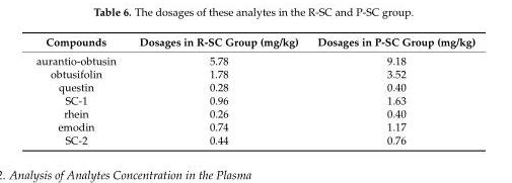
<table><thead><tr><td>Compounds</td><td>Dosages in R-SC Group (mg/kg)</td><td>Dosages in P-SC Group (mg/kg)</td></tr></thead><tbody><tr><td>aurantio-obtusin</td><td>5.78</td><td>9.18</td></tr><tr><td>obtusifolin</td><td>1.78</td><td>3.52</td></tr><tr><td>questin</td><td>0.28</td><td>0.40</td></tr><tr><td>SC-1</td><td>0.96</td><td>1.63</td></tr><tr><td>rhein</td><td>0.26</td><td>0.40</td></tr><tr><td>emodin</td><td>0.74</td><td>1.17</td></tr><tr><td>SC-2</td><td>0.44</td><td>0.76</td></tr></tbody></table>